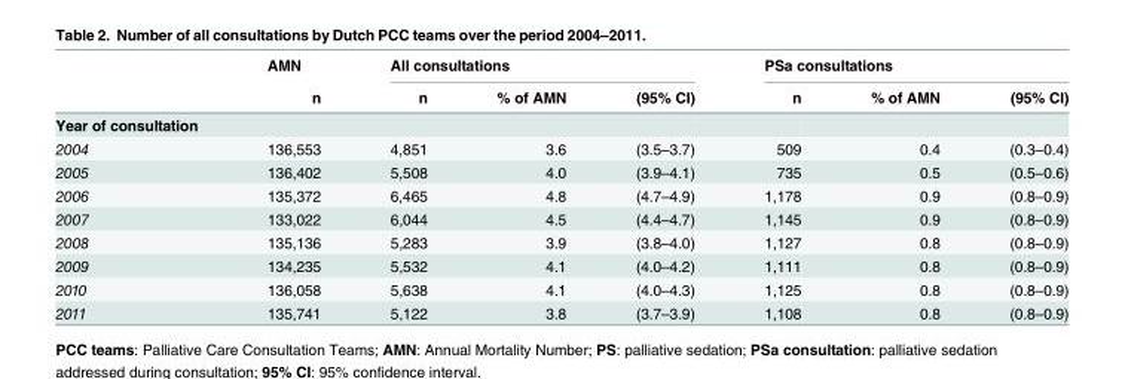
<table><thead><tr><td rowspan="2"></td><td rowspan="2">AMN n</td><td colspan="3">All consultations</td><td colspan="3">PSa consultations</td></tr><tr><td>n</td><td>% of AMN</td><td>(95% CI)</td><td>n</td><td>% of AMN</td><td>(95% CI)</td></tr></thead><tbody><tr><td colspan="8">Year of consultation</td></tr><tr><td>2004</td><td>136,553</td><td>4,851</td><td>3.6</td><td>(3.5–3.7)</td><td>509</td><td>0.4</td><td>(0.3–0.4)</td></tr><tr><td>2005</td><td>136,402</td><td>5,508</td><td>4.0</td><td>(3.9–4.1)</td><td>735</td><td>0.5</td><td>(0.5–0.6)</td></tr><tr><td>2006</td><td>135,372</td><td>6,465</td><td>4.8</td><td>(4.7–4.9)</td><td>1,178</td><td>0.9</td><td>(0.8–0.9)</td></tr><tr><td>2007</td><td>133,022</td><td>6,044</td><td>4.5</td><td>(4.4–4.7)</td><td>1,145</td><td>0.9</td><td>(0.8–0.9)</td></tr><tr><td>2008</td><td>135,136</td><td>5,283</td><td>3.9</td><td>(3.8–4.0)</td><td>1,127</td><td>0.8</td><td>(0.8–0.9)</td></tr><tr><td>2009</td><td>134,235</td><td>5,532</td><td>4.1</td><td>(4.0–4.2)</td><td>1,111</td><td>0.8</td><td>(0.8–0.9)</td></tr><tr><td>2010</td><td>136,058</td><td>5,638</td><td>4.1</td><td>(4.0–4.3)</td><td>1,125</td><td>0.8</td><td>(0.8–0.9)</td></tr><tr><td>2011</td><td>135,741</td><td>5,122</td><td>3.8</td><td>(3.7–3.9)</td><td>1,108</td><td>0.8</td><td>(0.8–0.9)</td></tr></tbody></table>